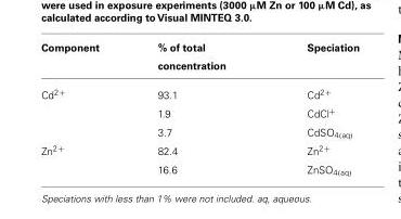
<table><thead><tr><td>Component</td><td>% of total concentration</td><td>Speciation</td></tr></thead><tbody><tr><td rowspan="3">Cd<sup>2+</sup></td><td>93.1</td><td>Cd<sup>2+</sup></td></tr><tr><td>1.9</td><td>CdCl<sup>+</sup></td></tr><tr><td>3.7</td><td>CdSO<sub>4(aq)</sub></td></tr><tr><td rowspan="2">Zn<sup>2+</sup></td><td>82.4</td><td>Zn<sup>2+</sup></td></tr><tr><td>16.6</td><td>ZnSO<sub>4(aq)</sub></td></tr></tbody></table>